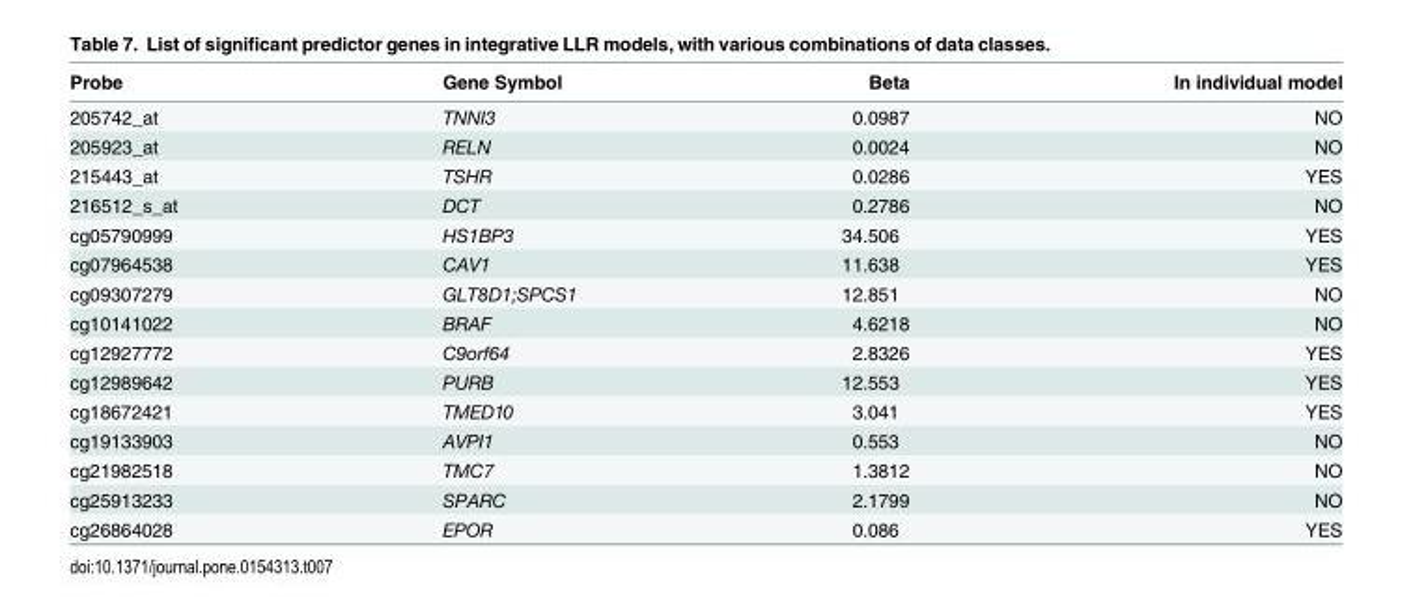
<table><thead><tr><td>Probe</td><td>Gene Symbol</td><td>Beta</td><td>In individual model</td></tr></thead><tbody><tr><td>205742_at</td><td>TNNI3</td><td>0.0987</td><td>NO</td></tr><tr><td>205923_at</td><td>RELN</td><td>0.0024</td><td>NO</td></tr><tr><td>215443_at</td><td>TSHR</td><td>0.0286</td><td>YES</td></tr><tr><td>216512_s_at</td><td>DCT</td><td>0.2786</td><td>NO</td></tr><tr><td>cg05790999</td><td>HS1BP3</td><td>34.506</td><td>YES</td></tr><tr><td>cg07964538</td><td>CAV1</td><td>11.638</td><td>YES</td></tr><tr><td>cg09307279</td><td>GLT8D1;SPCS1</td><td>12.851</td><td>NO</td></tr><tr><td>cg10141022</td><td>BRAF</td><td>4.6218</td><td>NO</td></tr><tr><td>cg12927772</td><td>C9orf64</td><td>2.8326</td><td>YES</td></tr><tr><td>cg12989642</td><td>PURB</td><td>12.553</td><td>YES</td></tr><tr><td>cg18672421</td><td>TMED10</td><td>3.041</td><td>YES</td></tr><tr><td>cg19133903</td><td>AVPI1</td><td>0.553</td><td>NO</td></tr><tr><td>cg21982518</td><td>TMC7</td><td>1.3812</td><td>NO</td></tr><tr><td>cg25913233</td><td>SPARC</td><td>2.1799</td><td>NO</td></tr><tr><td>cg26864028</td><td>EPOR</td><td>0.086</td><td>YES</td></tr></tbody></table>